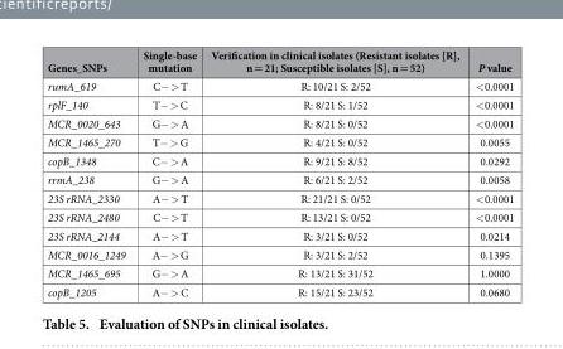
<table><thead><tr><td>Genes_SNPs</td><td>Single-base mutation</td><td>Verification in clinical isolates (Resistant isolates [R], n = 21; Susceptible isolates [S], n = 52)</td><td>P value</td></tr></thead><tbody><tr><td>rumA_619</td><td>C− &gt; T</td><td>R: 10/21 S: 2/52</td><td>&lt; 0.0001</td></tr><tr><td>rplF_140</td><td>T− &gt; C</td><td>R: 8/21 S: 1/52</td><td>&lt; 0.0001</td></tr><tr><td>MCR_0020_643</td><td>G− &gt; A</td><td>R: 8/21 S: 0/52</td><td>&lt; 0.0001</td></tr><tr><td>MCR_1465_270</td><td>T− &gt; G</td><td>R: 4/21 S: 0/52</td><td>0.0055</td></tr><tr><td>copB_1348</td><td>C− &gt; A</td><td>R: 9/21 S: 8/52</td><td>0.0292</td></tr><tr><td>rrmA_238</td><td>G− &gt; A</td><td>R: 6/21 S: 2/52</td><td>0.0058</td></tr><tr><td>23S rRNA_2330</td><td>A− &gt; T</td><td>R: 21/21 S: 0/52</td><td>&lt; 0.0001</td></tr><tr><td>23S rRNA_2480</td><td>C− &gt; T</td><td>R: 13/21 S: 0/52</td><td>&lt; 0.0001</td></tr><tr><td>23S rRNA_2144</td><td>A− &gt; T</td><td>R: 3/21 S: 0/52</td><td>0.0214</td></tr><tr><td>MCR_0016_1249</td><td>A− &gt; G</td><td>R: 3/21 S: 2/52</td><td>0.1395</td></tr><tr><td>MCR_1465_695</td><td>G− &gt; A</td><td>R: 13/21 S: 31/52</td><td>1.0000</td></tr><tr><td>copB_1205</td><td>A− &gt; C</td><td>R: 15/21 S: 23/52</td><td>0.0680</td></tr></tbody></table>